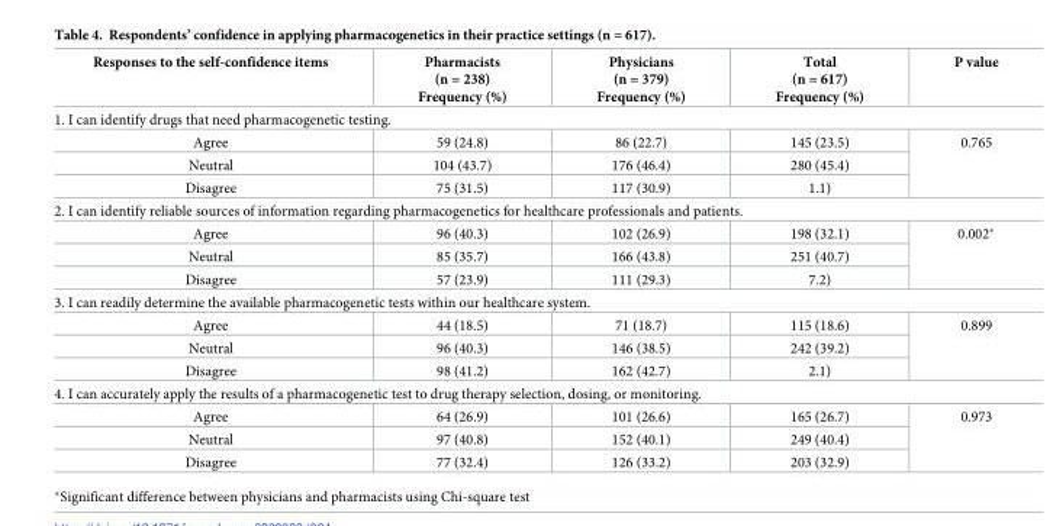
<table><thead><tr><td>Responses to the self-confidence items</td><td>Pharmacists (n = 238) Frequency (%)</td><td>Physicians (n = 379) Frequency (%)</td><td>Total (n = 617) Frequency (%)</td><td>P value</td></tr></thead><tbody><tr><td colspan="5">1. I can identify drugs that need pharmacogenetic testing.</td></tr><tr><td>Agree</td><td>59 (24.8)</td><td>86 (22.7)</td><td>145 (23.5)</td><td rowspan="3">0.765</td></tr><tr><td>Neutral</td><td>104 (43.7)</td><td>176 (46.4)</td><td>280 (45.4)</td></tr><tr><td>Disagree</td><td>75 (31.5)</td><td>117 (30.9)</td><td>1.1)</td></tr><tr><td colspan="5">2. I can identify reliable sources of information regarding pharmacogenetics for healthcare professionals and patients.</td></tr><tr><td>Agree</td><td>96 (40.3)</td><td>102 (26.9)</td><td>198 (32.1)</td><td rowspan="3">0.002*</td></tr><tr><td>Neutral</td><td>85 (35.7)</td><td>166 (43.8)</td><td>251 (40.7)</td></tr><tr><td>Disagree</td><td>57 (23.9)</td><td>111 (29.3)</td><td>7.2)</td></tr><tr><td colspan="5">3. I can readily determine the available pharmacogenetic tests within our healthcare system.</td></tr><tr><td>Agree</td><td>44 (18.5)</td><td>71 (18.7)</td><td>115 (18.6)</td><td rowspan="3">0.899</td></tr><tr><td>Neutral</td><td>96 (40.3)</td><td>146 (38.5)</td><td>242 (39.2)</td></tr><tr><td>Disagree</td><td>98 (41.2)</td><td>162 (42.7)</td><td>2.1)</td></tr><tr><td colspan="5">4. I can accurately apply the results of a pharmacogenetic test to drug therapy selection, dosing, or monitoring.</td></tr><tr><td>Agree</td><td>64 (26.9)</td><td>101 (26.6)</td><td>165 (26.7)</td><td rowspan="3">0.973</td></tr><tr><td>Neutral</td><td>97 (40.8)</td><td>152 (40.1)</td><td>249 (40.4)</td></tr><tr><td>Disagree</td><td>77 (32.4)</td><td>126 (33.2)</td><td>203 (32.9)</td></tr></tbody></table>